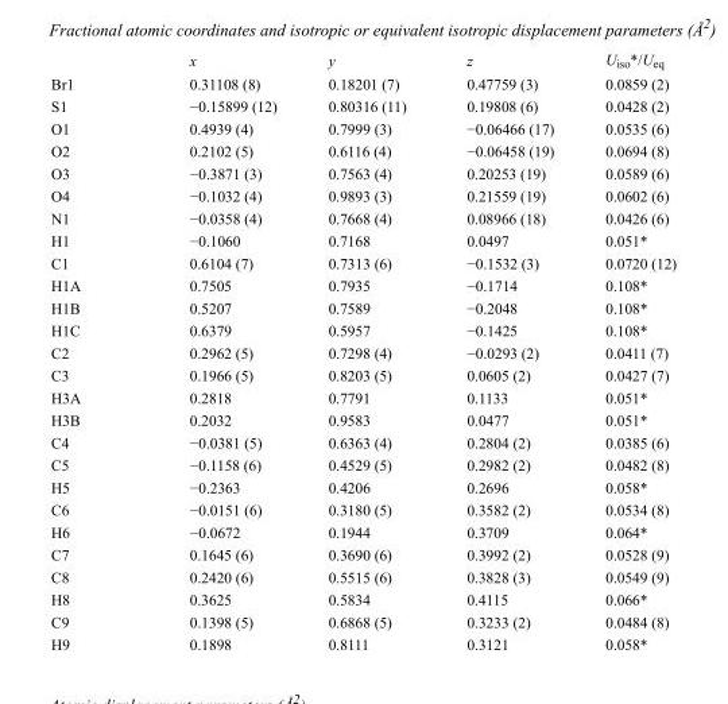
<table><thead><tr><td></td><td>x</td><td>y</td><td>z</td><td>U<sub>iso</sub>*/U<sub>eq</sub></td></tr></thead><tbody><tr><td>Br1</td><td>0.31108 (8)</td><td>0.18201 (7)</td><td>0.47759 (3)</td><td>0.0859 (2)</td></tr><tr><td>S1</td><td>−0.15899 (12)</td><td>0.80316 (11)</td><td>0.19808 (6)</td><td>0.0428 (2)</td></tr><tr><td>O1</td><td>0.4939 (4)</td><td>0.7999 (3)</td><td>−0.06466 (17)</td><td>0.0535 (6)</td></tr><tr><td>O2</td><td>0.2102 (5)</td><td>0.6116 (4)</td><td>−0.06458 (19)</td><td>0.0694 (8)</td></tr><tr><td>O3</td><td>−0.3871 (3)</td><td>0.7563 (4)</td><td>0.20253 (19)</td><td>0.0589 (6)</td></tr><tr><td>O4</td><td>−0.1032 (4)</td><td>0.9893 (3)</td><td>0.21559 (19)</td><td>0.0602 (6)</td></tr><tr><td>N1</td><td>−0.0358 (4)</td><td>0.7668 (4)</td><td>0.08966 (18)</td><td>0.0426 (6)</td></tr><tr><td>H1</td><td>−0.1060</td><td>0.7168</td><td>0.0497</td><td>0.051*</td></tr><tr><td>C1</td><td>0.6104 (7)</td><td>0.7313 (6)</td><td>−0.1532 (3)</td><td>0.0720 (12)</td></tr><tr><td>H1A</td><td>0.7505</td><td>0.7935</td><td>−0.1714</td><td>0.108*</td></tr><tr><td>H1B</td><td>0.5207</td><td>0.7589</td><td>−0.2048</td><td>0.108*</td></tr><tr><td>H1C</td><td>0.6379</td><td>0.5957</td><td>−0.1425</td><td>0.108*</td></tr><tr><td>C2</td><td>0.2962 (5)</td><td>0.7298 (4)</td><td>−0.0293 (2)</td><td>0.0411 (7)</td></tr><tr><td>C3</td><td>0.1966 (5)</td><td>0.8203 (5)</td><td>0.0605 (2)</td><td>0.0427 (7)</td></tr><tr><td>H3A</td><td>0.2818</td><td>0.7791</td><td>0.1133</td><td>0.051*</td></tr><tr><td>H3B</td><td>0.2032</td><td>0.9583</td><td>0.0477</td><td>0.051*</td></tr><tr><td>C4</td><td>−0.0381 (5)</td><td>0.6363 (4)</td><td>0.2804 (2)</td><td>0.0385 (6)</td></tr><tr><td>C5</td><td>−0.1158 (6)</td><td>0.4529 (5)</td><td>0.2982 (2)</td><td>0.0482 (8)</td></tr><tr><td>H5</td><td>−0.2363</td><td>0.4206</td><td>0.2696</td><td>0.058*</td></tr><tr><td>C6</td><td>−0.0151 (6)</td><td>0.3180 (5)</td><td>0.3582 (2)</td><td>0.0534 (8)</td></tr><tr><td>H6</td><td>−0.0672</td><td>0.1944</td><td>0.3709</td><td>0.064*</td></tr><tr><td>C7</td><td>0.1645 (6)</td><td>0.3690 (6)</td><td>0.3992 (2)</td><td>0.0528 (9)</td></tr><tr><td>C8</td><td>0.2420 (6)</td><td>0.5515 (6)</td><td>0.3828 (3)</td><td>0.0549 (9)</td></tr><tr><td>H8</td><td>0.3625</td><td>0.5834</td><td>0.4115</td><td>0.066*</td></tr><tr><td>C9</td><td>0.1398 (5)</td><td>0.6868 (5)</td><td>0.3233 (2)</td><td>0.0484 (8)</td></tr><tr><td>H9</td><td>0.1898</td><td>0.8111</td><td>0.3121</td><td>0.058*</td></tr></tbody></table>